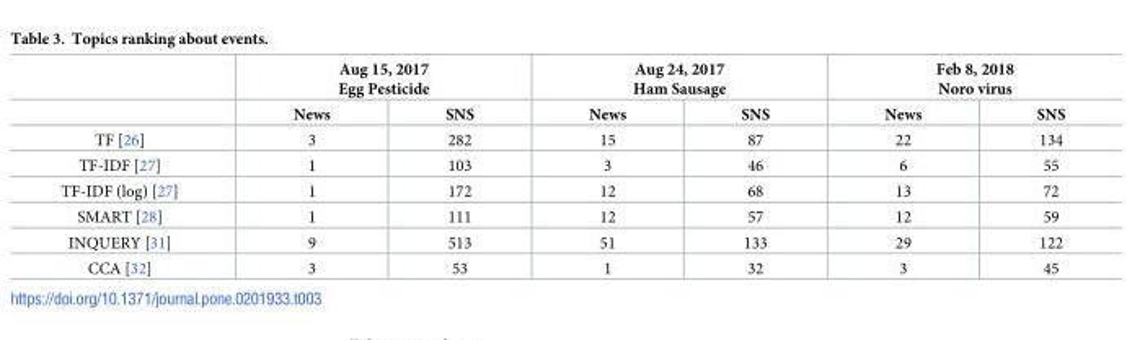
<table><thead><tr><td rowspan="2"></td><td colspan="2">Aug 15, 2017 Egg Pesticide</td><td colspan="2">Aug 24, 2017 Ham Sausage</td><td colspan="2">Feb 8, 2018 Noro virus</td></tr><tr><td>News</td><td>SNS</td><td>News</td><td>SNS</td><td>News</td><td>SNS</td></tr></thead><tbody><tr><td>TF [26]</td><td>3</td><td>282</td><td>15</td><td>87</td><td>22</td><td>134</td></tr><tr><td>TF-IDF [27]</td><td>1</td><td>103</td><td>3</td><td>46</td><td>6</td><td>55</td></tr><tr><td>TF-IDF (log) [27]</td><td>1</td><td>172</td><td>12</td><td>68</td><td>13</td><td>72</td></tr><tr><td>SMART [28]</td><td>1</td><td>111</td><td>12</td><td>57</td><td>12</td><td>59</td></tr><tr><td>INQUERY [31]</td><td>9</td><td>513</td><td>51</td><td>133</td><td>29</td><td>122</td></tr><tr><td>CCA [32]</td><td>3</td><td>53</td><td>1</td><td>32</td><td>3</td><td>45</td></tr></tbody></table>